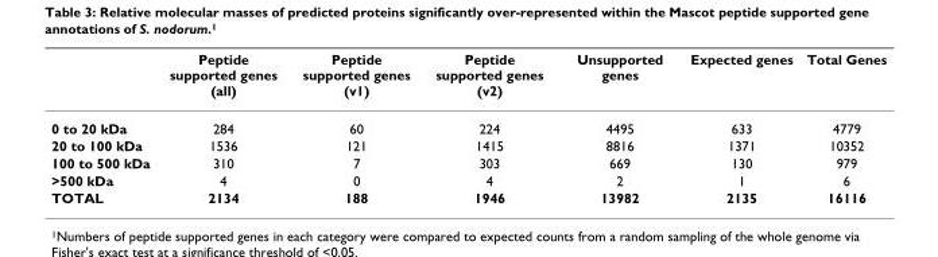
<table><thead><tr><td></td><td>Peptide supported genes (all)</td><td>Peptide supported genes (v1)</td><td>Peptide supported genes (v2)</td><td>Unsupported genes</td><td>Expected genes</td><td>Total Genes</td></tr></thead><tbody><tr><td>0 to 20 kDa</td><td>284</td><td>60</td><td>224</td><td>4495</td><td>633</td><td>4779</td></tr><tr><td>20 to 100 kDa</td><td>1536</td><td>121</td><td>1415</td><td>8816</td><td>1371</td><td>10352</td></tr><tr><td>100 to 500 kDa</td><td>310</td><td>7</td><td>303</td><td>669</td><td>130</td><td>979</td></tr><tr><td>&gt;500 kDa</td><td>4</td><td>0</td><td>4</td><td>2</td><td>1</td><td>6</td></tr><tr><td>TOTAL</td><td>2134</td><td>188</td><td>1946</td><td>13982</td><td>2135</td><td>16116</td></tr></tbody></table>